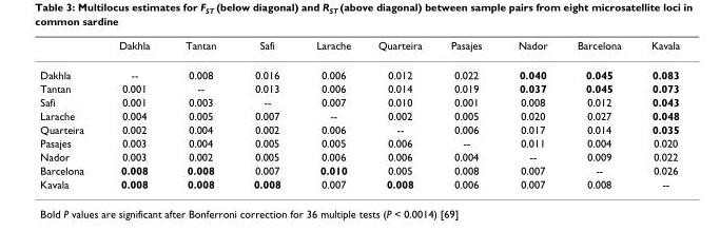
<table><thead><tr><td></td><td>Dakhla</td><td>Tantan</td><td>Safi</td><td>Larache</td><td>Quarteira</td><td>Pasajes</td><td>Nador</td><td>Barcelona</td><td>Kavala</td></tr></thead><tbody><tr><td>Dakhla</td><td>--</td><td>0.008</td><td>0.016</td><td>0.006</td><td>0.012</td><td>0.022</td><td>0.040</td><td>0.045</td><td>0.083</td></tr><tr><td>Tantan</td><td>0.001</td><td>--</td><td>0.013</td><td>0.006</td><td>0.014</td><td>0.019</td><td>0.037</td><td>0.045</td><td>0.073</td></tr><tr><td>Safi</td><td>0.001</td><td>0.003</td><td>--</td><td>0.007</td><td>0.010</td><td>0.001</td><td>0.008</td><td>0.012</td><td>0.043</td></tr><tr><td>Larache</td><td>0.004</td><td>0.005</td><td>0.007</td><td>--</td><td>0.002</td><td>0.005</td><td>0.020</td><td>0.027</td><td>0.048</td></tr><tr><td>Quarteira</td><td>0.002</td><td>0.004</td><td>0.002</td><td>0.006</td><td>--</td><td>0.006</td><td>0.017</td><td>0.014</td><td>0.035</td></tr><tr><td>Pasajes</td><td>0.003</td><td>0.004</td><td>0.005</td><td>0.005</td><td>0.006</td><td>--</td><td>0.011</td><td>0.004</td><td>0.020</td></tr><tr><td>Nador</td><td>0.003</td><td>0.002</td><td>0.005</td><td>0.006</td><td>0.006</td><td>0.004</td><td>--</td><td>0.009</td><td>0.022</td></tr><tr><td>Barcelona</td><td>0.008</td><td>0.008</td><td>0.007</td><td>0.010</td><td>0.005</td><td>0.008</td><td>0.007</td><td>--</td><td>0.026</td></tr><tr><td>Kavala</td><td>0.008</td><td>0.008</td><td>0.008</td><td>0.007</td><td>0.008</td><td>0.006</td><td>0.007</td><td>0.008</td><td>--</td></tr></tbody></table>